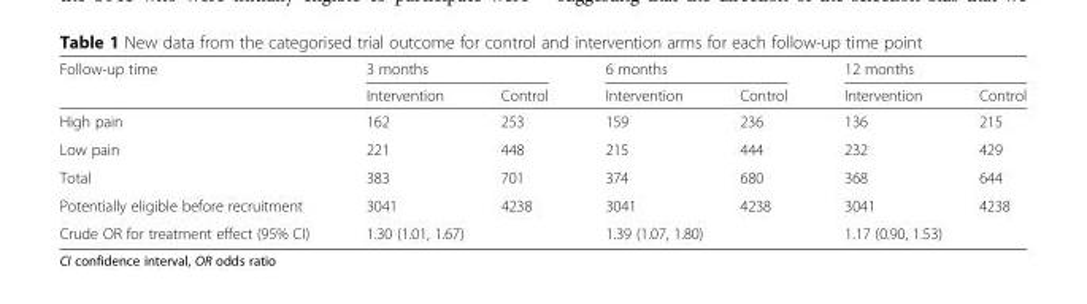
<table><thead><tr><td rowspan="2">Follow-up time</td><td colspan="2">3 months</td><td colspan="2">6 months</td><td colspan="2">12 months</td></tr><tr><td>Intervention</td><td>Control</td><td>Intervention</td><td>Control</td><td>Intervention</td><td>Control</td></tr></thead><tbody><tr><td>High pain</td><td>162</td><td>253</td><td>159</td><td>236</td><td>136</td><td>215</td></tr><tr><td>Low pain</td><td>221</td><td>448</td><td>215</td><td>444</td><td>232</td><td>429</td></tr><tr><td>Total</td><td>383</td><td>701</td><td>374</td><td>680</td><td>368</td><td>644</td></tr><tr><td>Potentially eligible before recruitment</td><td>3041</td><td>4238</td><td>3041</td><td>4238</td><td>3041</td><td>4238</td></tr><tr><td>Crude OR for treatment effect (95% CI)</td><td colspan="2">1.30 (1.01, 1.67)</td><td colspan="2">1.39 (1.07, 1.80)</td><td colspan="2">1.17 (0.90, 1.53)</td></tr></tbody></table>